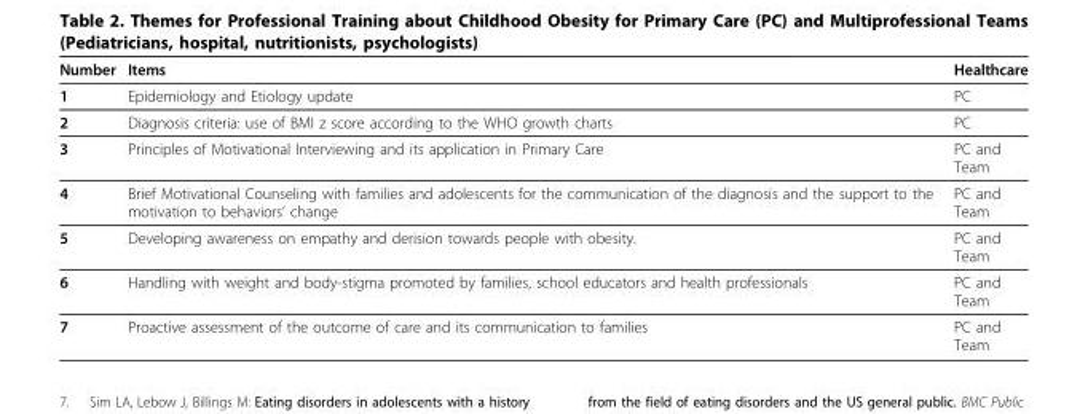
<table><thead><tr><td>Number</td><td>Items</td><td>Healthcare</td></tr></thead><tbody><tr><td>1</td><td>Epidemiology and Etiology update</td><td>PC</td></tr><tr><td>2</td><td>Diagnosis criteria: use of BMI z score according to the WHO growth charts</td><td>PC</td></tr><tr><td>3</td><td>Principles of Motivational Interviewing and its application in Primary Care</td><td>PC and Team</td></tr><tr><td>4</td><td>Brief Motivational Counseling with families and adolescents for the communication of the diagnosis and the support to the motivation to behaviors’ change</td><td>PC and Team</td></tr><tr><td>5</td><td>Developing awareness on empathy and derision towards people with obesity.</td><td>PC and Team</td></tr><tr><td>6</td><td>Handling with weight and body-stigma promoted by families, school educators and health professionals</td><td>PC and Team</td></tr><tr><td>7</td><td>Proactive assessment of the outcome of care and its communication to families</td><td>PC and Team</td></tr></tbody></table>